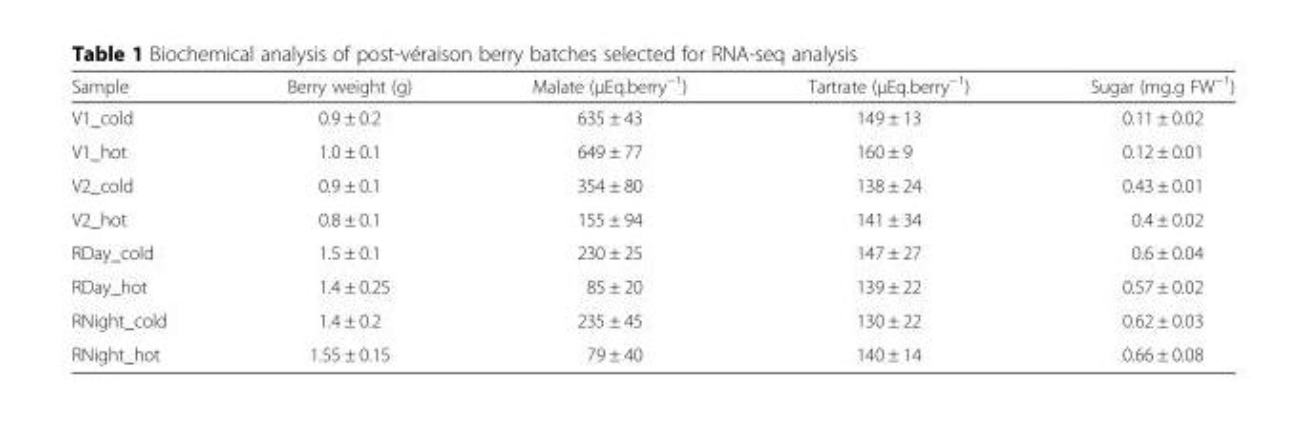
<table><thead><tr><td>Sample</td><td>Berry weight (g)</td><td>Malate (μEq.berry<sup>−1</sup>)</td><td>Tartrate (μEq.berry<sup>−1</sup>)</td><td>Sugar (mg.g FW<sup>−1</sup>)</td></tr></thead><tbody><tr><td>V1_cold</td><td>0.9 ± 0.2</td><td>635 ± 43</td><td>149 ± 13</td><td>0.11 ± 0.02</td></tr><tr><td>V1_hot</td><td>1.0 ± 0.1</td><td>649 ± 77</td><td>160 ± 9</td><td>0.12 ± 0.01</td></tr><tr><td>V2_cold</td><td>0.9 ± 0.1</td><td>354 ± 80</td><td>138 ± 24</td><td>0.43 ± 0.01</td></tr><tr><td>V2_hot</td><td>0.8 ± 0.1</td><td>155 ± 94</td><td>141 ± 34</td><td>0.4 ± 0.02</td></tr><tr><td>RDay_cold</td><td>1.5 ± 0.1</td><td>230 ± 25</td><td>147 ± 27</td><td>0.6 ± 0.04</td></tr><tr><td>RDay_hot</td><td>1.4 ± 0.25</td><td>85 ± 20</td><td>139 ± 22</td><td>0.57 ± 0.02</td></tr><tr><td>RNight_cold</td><td>1.4 ± 0.2</td><td>235 ± 45</td><td>130 ± 22</td><td>0.62 ± 0.03</td></tr><tr><td>RNight_hot</td><td>1.55 ± 0.15</td><td>79 ± 40</td><td>140 ± 14</td><td>0.66 ± 0.08</td></tr></tbody></table>